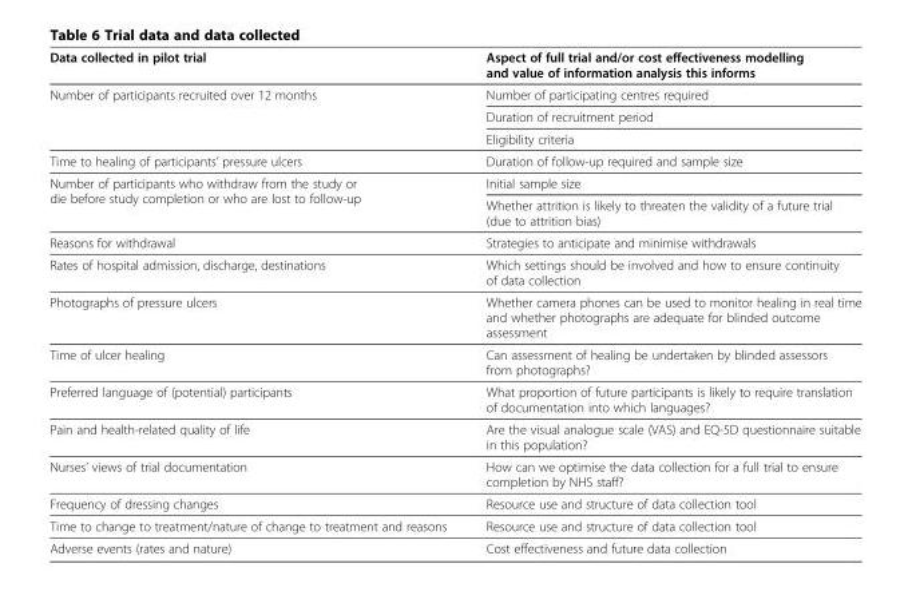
<table><thead><tr><td>Data collected in pilot trial</td><td>Aspect of full trial and/or cost effectiveness modelling and value of information analysis this informs</td></tr></thead><tbody><tr><td rowspan="3">Number of participants recruited over 12 months</td><td>Number of participating centres required</td></tr><tr><td>Duration of recruitment period</td></tr><tr><td>Eligibility criteria</td></tr><tr><td>Time to healing of participants’ pressure ulcers</td><td>Duration of follow-up required and sample size</td></tr><tr><td rowspan="2">Number of participants who withdraw from the study or die before study completion or who are lost to follow-up</td><td>Initial sample size</td></tr><tr><td>Whether attrition is likely to threaten the validity of a future trial (due to attrition bias)</td></tr><tr><td>Reasons for withdrawal</td><td>Strategies to anticipate and minimise withdrawals</td></tr><tr><td>Rates of hospital admission, discharge, destinations</td><td>Which settings should be involved and how to ensure continuity of data collection</td></tr><tr><td>Photographs of pressure ulcers</td><td>Whether camera phones can be used to monitor healing in real time and whether photographs are adequate for blinded outcome assessment</td></tr><tr><td>Time of ulcer healing</td><td>Can assessment of healing be undertaken by blinded assessors from photographs?</td></tr><tr><td>Preferred language of (potential) participants</td><td>What proportion of future participants is likely to require translation of documentation into which languages?</td></tr><tr><td>Pain and health-related quality of life</td><td>Are the visual analogue scale (VAS) and EQ-5D questionnaire suitable in this population?</td></tr><tr><td>Nurses’ views of trial documentation</td><td>How can we optimise the data collection for a full trial to ensure completion by NHS staff?</td></tr><tr><td>Frequency of dressing changes</td><td>Resource use and structure of data collection tool</td></tr><tr><td>Time to change to treatment/nature of change to treatment and reasons</td><td>Resource use and structure of data collection tool</td></tr><tr><td>Adverse events (rates and nature)</td><td>Cost effectiveness and future data collection</td></tr></tbody></table>